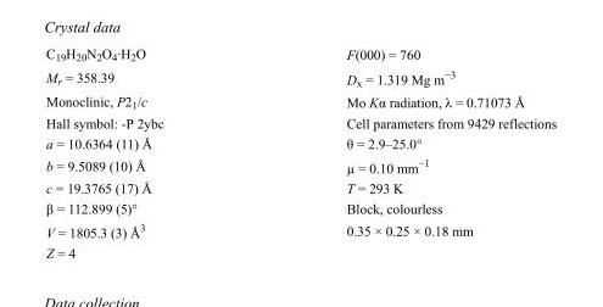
<table><tbody><tr><td>C<sub>19</sub>H<sub>20</sub>N<sub>2</sub>O<sub>4</sub>·H<sub>2</sub>O</td><td>F(000) = 760</td></tr><tr><td>M<sub>r</sub> = 358.39</td><td>D<sub>x</sub> = 1.319 Mg m<sup>−3</sup></td></tr><tr><td>Monoclinic, P2<sub>1</sub>/c</td><td>Mo Kα radiation, λ = 0.71073 Å</td></tr><tr><td>Hall symbol: -P 2ybc</td><td>Cell parameters from 9429 reflections</td></tr><tr><td>a = 10.6364 (11) Å</td><td>θ = 2.9–25.0°</td></tr><tr><td>b = 9.5089 (10) Å</td><td>µ = 0.10 mm<sup>−1</sup></td></tr><tr><td>c = 19.3765 (17) Å</td><td>T = 293 K</td></tr><tr><td>β = 112.899 (5)°</td><td>Block, colourless</td></tr><tr><td>V = 1805.3 (3) Å<sup>3</sup></td><td>0.35 × 0.25 × 0.18 mm</td></tr><tr><td>Z = 4</td><td></td></tr></tbody></table>